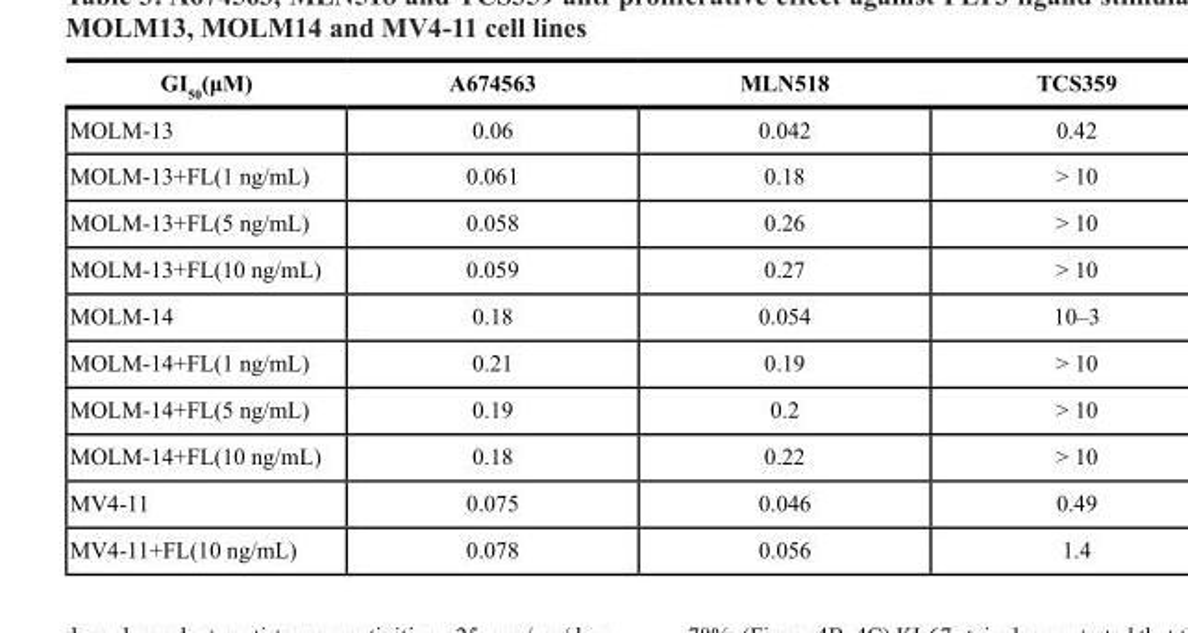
<table><thead><tr><td>GI<sub>50</sub>(μM)</td><td>A674563</td><td>MLN518</td><td>TCS359</td></tr></thead><tbody><tr><td>MOLM-13</td><td>0.06</td><td>0.042</td><td>0.42</td></tr><tr><td>MOLM-13+FL(1 ng/mL)</td><td>0.061</td><td>0.18</td><td>&gt; 10</td></tr><tr><td>MOLM-13+FL(5 ng/mL)</td><td>0.058</td><td>0.26</td><td>&gt; 10</td></tr><tr><td>MOLM-13+FL(10 ng/mL)</td><td>0.059</td><td>0.27</td><td>&gt; 10</td></tr><tr><td>MOLM-14</td><td>0.18</td><td>0.054</td><td>10–3</td></tr><tr><td>MOLM-14+FL(1 ng/mL)</td><td>0.21</td><td>0.19</td><td>&gt; 10</td></tr><tr><td>MOLM-14+FL(5 ng/mL)</td><td>0.19</td><td>0.2</td><td>&gt; 10</td></tr><tr><td>MOLM-14+FL(10 ng/mL)</td><td>0.18</td><td>0.22</td><td>&gt; 10</td></tr><tr><td>MV4-11</td><td>0.075</td><td>0.046</td><td>0.49</td></tr><tr><td>MV4-11+FL(10 ng/mL)</td><td>0.078</td><td>0.056</td><td>1.4</td></tr></tbody></table>